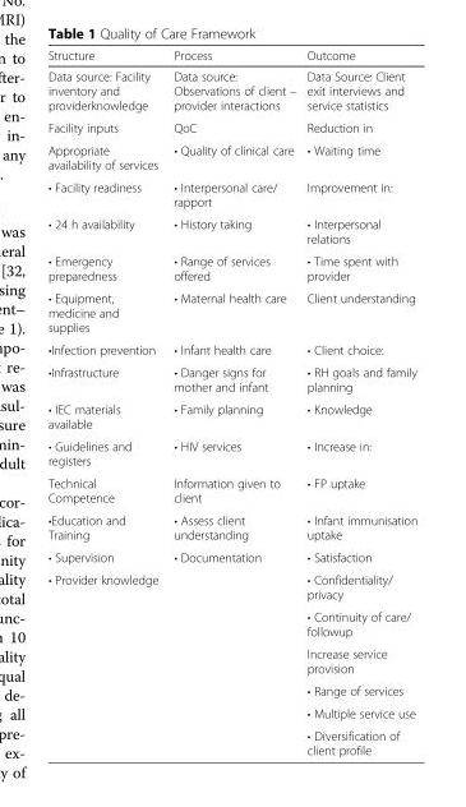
<table><thead><tr><td>Structure</td><td>Process</td><td>Outcome</td></tr></thead><tbody><tr><td>Data source: Facility inventory and providerknowledge</td><td>Data source: Observations of client – provider interactions</td><td>Data Source: Client exit interviews and service statistics</td></tr><tr><td>Facility inputs</td><td>QoC</td><td>Reduction in</td></tr><tr><td>Appropriate availability of services</td><td>• Quality of clinical care</td><td>• Waiting time</td></tr><tr><td>• Facility readiness</td><td>• Interpersonal care/ rapport</td><td>Improvement in:</td></tr><tr><td>• 24 h availability</td><td>• History taking</td><td>• Interpersonal relations</td></tr><tr><td>• Emergency preparedness</td><td>• Range of services offered</td><td>• Time spent with provider</td></tr><tr><td>• Equipment, medicine and supplies</td><td>• Maternal health care</td><td>Client understanding</td></tr><tr><td>•Infection prevention</td><td>• Infant health care</td><td>• Client choice:</td></tr><tr><td>•Infrastructure</td><td>• Danger signs for mother and infant</td><td>• RH goals and family planning</td></tr><tr><td>• IEC materials available</td><td>• Family planning</td><td>• Knowledge</td></tr><tr><td>• Guidelines and registers</td><td>• HIV services</td><td>• Increase in:</td></tr><tr><td>Technical Competence</td><td>Information given to client</td><td>• FP uptake</td></tr><tr><td>•Education and Training</td><td>• Assess client understanding</td><td>• Infant immunisation uptake</td></tr><tr><td>• Supervision</td><td>• Documentation</td><td>• Satisfaction</td></tr><tr><td rowspan="6">• Provider knowledge</td><td rowspan="6"></td><td>• Confidentiality/ privacy</td></tr><tr><td>• Continuity of care/ followup</td></tr><tr><td>Increase service provision</td></tr><tr><td>• Range of services</td></tr><tr><td>• Multiple service use</td></tr><tr><td>• Diversification of client profile</td></tr></tbody></table>